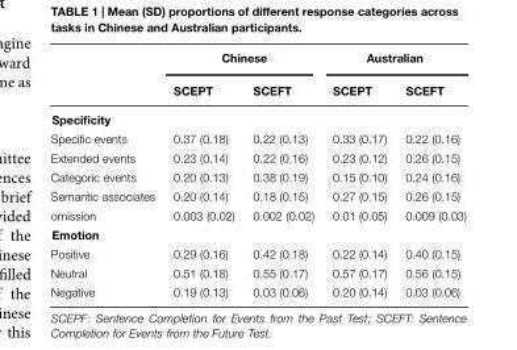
<table><thead><tr><td rowspan="2"></td><td colspan="2">Chinese</td><td colspan="2">Australian</td></tr><tr><td>SCEPT</td><td>SCEFT</td><td>SCEPT</td><td>SCEFT</td></tr></thead><tbody><tr><td colspan="5">Specificity</td></tr><tr><td>Specific events</td><td>0.37 (0.18)</td><td>0.22 (0.13)</td><td>0.33 (0.17)</td><td>0.22 (0.16)</td></tr><tr><td>Extended events</td><td>0.23 (0.14)</td><td>0.22 (0.16)</td><td>0.23 (0.12)</td><td>0.26 (0.15)</td></tr><tr><td>Categoric events</td><td>0.20 (0.13)</td><td>0.38 (0.19)</td><td>0.15 (0.10)</td><td>0.24 (0.16)</td></tr><tr><td>Semantic associates</td><td>0.20 (0.14)</td><td>0.18 (0.15)</td><td>0.27 (0.15)</td><td>0.26 (0.15)</td></tr><tr><td>omission</td><td>0.003 (0.02)</td><td>0.002 (0.02)</td><td>0.01 (0.05)</td><td>0.009 (0.03)</td></tr><tr><td colspan="5">Emotion</td></tr><tr><td>Positive</td><td>0.29 (0.16)</td><td>0.42 (0.18)</td><td>0.22 (0.14)</td><td>0.40 (0.15)</td></tr><tr><td>Neutral</td><td>0.51 (0.18)</td><td>0.55 (0.17)</td><td>0.57 (0.17)</td><td>0.56 (0.15)</td></tr><tr><td>Negative</td><td>0.19 (0.13)</td><td>0.03 (0.06)</td><td>0.20 (0.14)</td><td>0.03 (0.06)</td></tr></tbody></table>